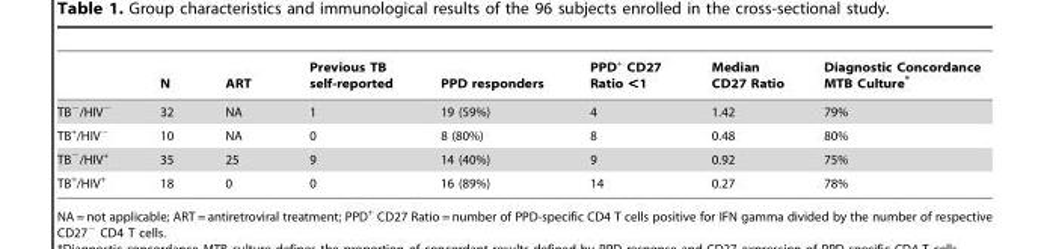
<table><thead><tr><td></td><td>N</td><td>ART</td><td>Previous TB self-reported</td><td>PPD responders</td><td>PPD<sup>+</sup> CD27 Ratio &lt;1</td><td>Median CD27 Ratio</td><td>Diagnostic Concordance MTB Culture*</td></tr></thead><tbody><tr><td>TB<sup>−</sup>/HIV<sup>−</sup></td><td>32</td><td>NA</td><td>1</td><td>19 (59%)</td><td>4</td><td>1.42</td><td>79%</td></tr><tr><td>TB<sup>+</sup>/HIV<sup>−</sup></td><td>10</td><td>NA</td><td>0</td><td>8 (80%)</td><td>8</td><td>0.48</td><td>80%</td></tr><tr><td>TB<sup>−</sup>/HIV<sup>+</sup></td><td>35</td><td>25</td><td>9</td><td>14 (40%)</td><td>9</td><td>0.92</td><td>75%</td></tr><tr><td>TB<sup>+</sup>/HIV<sup>+</sup></td><td>18</td><td>0</td><td>0</td><td>16 (89%)</td><td>14</td><td>0.27</td><td>78%</td></tr></tbody></table>